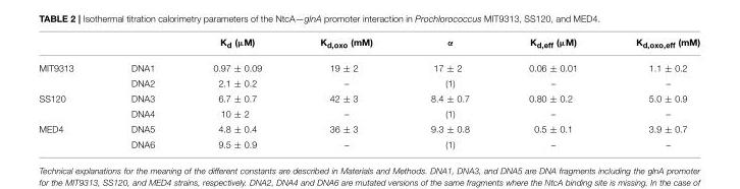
<table><thead><tr><td></td><td></td><td>K<sub>d</sub> (µM)</td><td>K<sub>d,oxo</sub> (mM)</td><td>α</td><td>K<sub>d,eff</sub> (µM)</td><td>K<sub>d,oxo,eff</sub> (mM)</td></tr></thead><tbody><tr><td rowspan="2">MIT9313</td><td>DNA1</td><td>0.97 ± 0.09</td><td>19 ± 2</td><td>17 ± 2</td><td>0.06 ± 0.01</td><td>1.1 ± 0.2</td></tr><tr><td>DNA2</td><td>2.1 ± 0.2</td><td>–</td><td>(1)</td><td>–</td><td>–</td></tr><tr><td rowspan="2">SS120</td><td>DNA3</td><td>6.7 ± 0.7</td><td>42 ± 3</td><td>8.4 ± 0.7</td><td>0.80 ± 0.2</td><td>5.0 ± 0.9</td></tr><tr><td>DNA4</td><td>10 ± 2</td><td>–</td><td>(1)</td><td>–</td><td>–</td></tr><tr><td rowspan="2">MED4</td><td>DNA5</td><td>4.8 ± 0.4</td><td>36 ± 3</td><td>9.3 ± 0.8</td><td>0.5 ± 0.1</td><td>3.9 ± 0.7</td></tr><tr><td>DNA6</td><td>9.5 ± 0.9</td><td>–</td><td>(1)</td><td>–</td><td>–</td></tr></tbody></table>